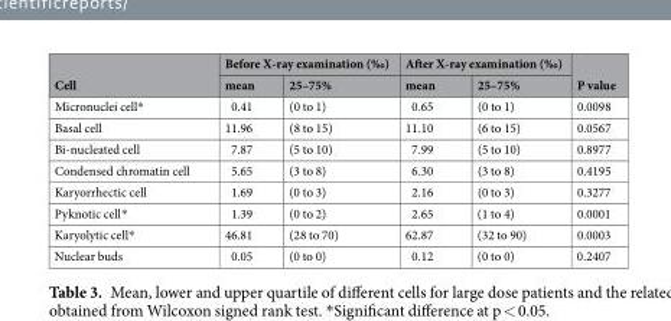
<table><thead><tr><td rowspan="2">Cell</td><td colspan="2">Before X-ray examination (‰)</td><td colspan="2">After X-ray examination (‰)</td><td rowspan="2">P value</td></tr><tr><td>mean</td><td>25–75%</td><td>mean</td><td>25–75%</td></tr></thead><tbody><tr><td>Micronuclei cell*</td><td>0.41</td><td>(0 to 1)</td><td>0.65</td><td>(0 to 1)</td><td>0.0098</td></tr><tr><td>Basal cell</td><td>11.96</td><td>(8 to 15)</td><td>11.10</td><td>(6 to 15)</td><td>0.0567</td></tr><tr><td>Bi-nucleated cell</td><td>7.87</td><td>(5 to 10)</td><td>7.99</td><td>(5 to 10)</td><td>0.8977</td></tr><tr><td>Condensed chromatin cell</td><td>5.65</td><td>(3 to 8)</td><td>6.30</td><td>(3 to 8)</td><td>0.4195</td></tr><tr><td>Karyorrhectic cell</td><td>1.69</td><td>(0 to 3)</td><td>2.16</td><td>(0 to 3)</td><td>0.3277</td></tr><tr><td>Pyknotic cell*</td><td>1.39</td><td>(0 to 2)</td><td>2.65</td><td>(1 to 4)</td><td>0.0001</td></tr><tr><td>Karyolytic cell*</td><td>46.81</td><td>(28 to 70)</td><td>62.87</td><td>(32 to 90)</td><td>0.0003</td></tr><tr><td>Nuclear buds</td><td>0.05</td><td>(0 to 0)</td><td>0.12</td><td>(0 to 0)</td><td>0.2407</td></tr></tbody></table>